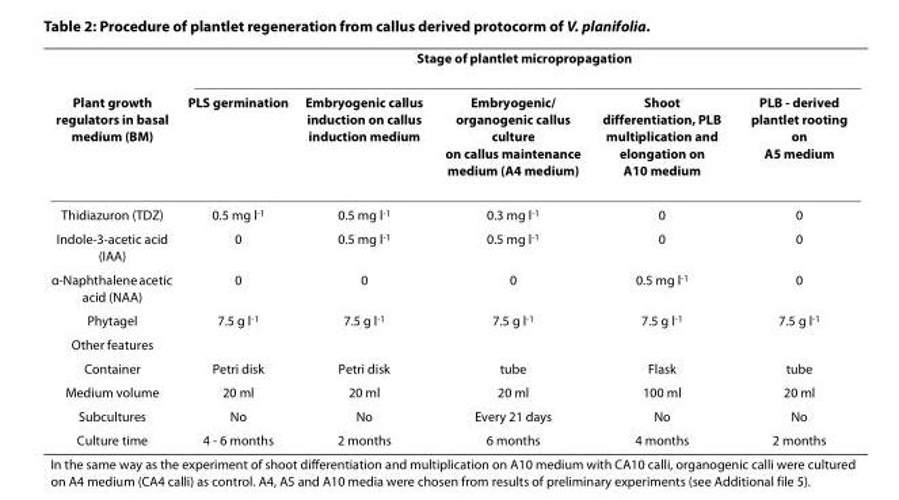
<table><thead><tr><td rowspan="2">Plant growth regulators in basal medium (BM)</td><td colspan="5">Stage of plantlet micropropagation</td></tr><tr><td>PLS germination</td><td>Embryogenic callus induction on callus induction medium</td><td>Embryogenic/ organogenic callus culture on callus maintenance medium (A4 medium)</td><td>Shoot differentiation, PLB multiplication and elongation on A10 medium</td><td>PLB - derived plantlet rooting on A5 medium</td></tr></thead><tbody><tr><td>Thidiazuron (TDZ)</td><td>0.5 mg l<sup>-1</sup></td><td>0.5 mg l<sup>-1</sup></td><td>0.3 mg l<sup>-1</sup></td><td>0</td><td>0</td></tr><tr><td>Indole-3-acetic acid (IAA)</td><td>0</td><td>0.5 mg l<sup>-1</sup></td><td>0.5 mg l<sup>-1</sup></td><td>0</td><td>0</td></tr><tr><td>α-Naphthalene acetic acid (NAA)</td><td>0</td><td>0</td><td>0</td><td>0.5 mg l<sup>-1</sup></td><td>0</td></tr><tr><td>Phytagel</td><td>7.5 g l<sup>-1</sup></td><td>7.5 g l<sup>-1</sup></td><td>7.5 g l<sup>-1</sup></td><td>7.5 g l<sup>-1</sup></td><td>7.5 g l<sup>-1</sup></td></tr><tr><td colspan="6">Other features</td></tr><tr><td>Container</td><td>Petri disk</td><td>Petri disk</td><td>tube</td><td>Flask</td><td>tube</td></tr><tr><td>Medium volume</td><td>20 ml</td><td>20 ml</td><td>20 ml</td><td>100 ml</td><td>20 ml</td></tr><tr><td>Subcultures</td><td>No</td><td>No</td><td>Every 21 days</td><td>No</td><td>No</td></tr><tr><td>Culture time</td><td>4 - 6 months</td><td>2 months</td><td>6 months</td><td>4 months</td><td>2 months</td></tr></tbody></table>